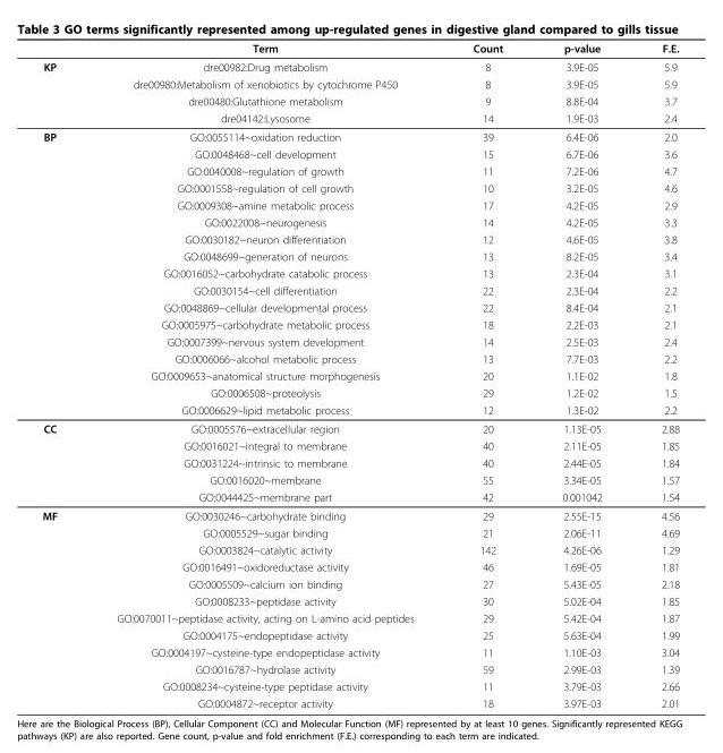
<table><thead><tr><td></td><td>Term</td><td>Count</td><td>p-value</td><td>F.E.</td></tr></thead><tbody><tr><td rowspan="4">KP</td><td>dre00982:Drug metabolism</td><td>8</td><td>3.9E-05</td><td>5.9</td></tr><tr><td>dre00980:Metabolism of xenobiotics by cytochrome P450</td><td>8</td><td>3.9E-05</td><td>5.9</td></tr><tr><td>dre00480:Glutathione metabolism</td><td>9</td><td>8.8E-04</td><td>3.7</td></tr><tr><td>dre04142:Lysosome</td><td>14</td><td>1.9E-03</td><td>2.4</td></tr><tr><td rowspan="17">BP</td><td>GO:0055114~oxidation reduction</td><td>39</td><td>6.4E-06</td><td>2.0</td></tr><tr><td>GO:0048468~cell development</td><td>15</td><td>6.7E-06</td><td>3.6</td></tr><tr><td>GO:0040008~regulation of growth</td><td>11</td><td>7.2E-06</td><td>4.7</td></tr><tr><td>GO:0001558~regulation of cell growth</td><td>10</td><td>3.2E-05</td><td>4.6</td></tr><tr><td>GO:0009308~amine metabolic process</td><td>17</td><td>4.2E-05</td><td>2.9</td></tr><tr><td>GO:0022008~neurogenesis</td><td>14</td><td>4.2E-05</td><td>3.3</td></tr><tr><td>GO:0030182~neuron differentiation</td><td>12</td><td>4.6E-05</td><td>3.8</td></tr><tr><td>GO:0048699~generation of neurons</td><td>13</td><td>8.2E-05</td><td>3.4</td></tr><tr><td>GO:0016052~carbohydrate catabolic process</td><td>13</td><td>2.3E-04</td><td>3.1</td></tr><tr><td>GO:0030154~cell differentiation</td><td>22</td><td>2.3E-04</td><td>2.2</td></tr><tr><td>GO:0048869~cellular developmental process</td><td>22</td><td>8.4E-04</td><td>2.1</td></tr><tr><td>GO:0005975~carbohydrate metabolic process</td><td>18</td><td>2.2E-03</td><td>2.1</td></tr><tr><td>GO:0007399~nervous system development</td><td>14</td><td>2.5E-03</td><td>2.4</td></tr><tr><td>GO:0006066~alcohol metabolic process</td><td>13</td><td>7.7E-03</td><td>2.2</td></tr><tr><td>GO:0009653~anatomical structure morphogenesis</td><td>20</td><td>1.1E-02</td><td>1.8</td></tr><tr><td>GO:0006508~proteolysis</td><td>29</td><td>1.2E-02</td><td>1.5</td></tr><tr><td>GO:0006629~lipid metabolic process</td><td>12</td><td>1.3E-02</td><td>2.2</td></tr><tr><td rowspan="5">CC</td><td>GO:0005576~extracellular region</td><td>20</td><td>1.13E-05</td><td>2.88</td></tr><tr><td>GO:0016021~integral to membrane</td><td>40</td><td>2.11E-05</td><td>1.85</td></tr><tr><td>GO:0031224~intrinsic to membrane</td><td>40</td><td>2.44E-05</td><td>1.84</td></tr><tr><td>GO:0016020~membrane</td><td>55</td><td>3.34E-05</td><td>1.57</td></tr><tr><td>GO:0044425~membrane part</td><td>42</td><td>0.001042</td><td>1.54</td></tr><tr><td rowspan="12">MF</td><td>GO:0030246~carbohydrate binding</td><td>29</td><td>2.55E-15</td><td>4.56</td></tr><tr><td>GO:0005529~sugar binding</td><td>21</td><td>2.06E-11</td><td>4.69</td></tr><tr><td>GO:0003824~catalytic activity</td><td>142</td><td>4.26E-06</td><td>1.29</td></tr><tr><td>GO:0016491~oxidoreductase activity</td><td>46</td><td>1.69E-05</td><td>1.81</td></tr><tr><td>GO:0005509~calcium ion binding</td><td>27</td><td>5.43E-05</td><td>2.18</td></tr><tr><td>GO:0008233~peptidase activity</td><td>30</td><td>5.02E-04</td><td>1.85</td></tr><tr><td>GO:0070011~peptidase activity, acting on L-amino acid peptides</td><td>29</td><td>5.42E-04</td><td>1.87</td></tr><tr><td>GO:0004175~endopeptidase activity</td><td>25</td><td>5.63E-04</td><td>1.99</td></tr><tr><td>GO:0004197~cysteine-type endopeptidase activity</td><td>11</td><td>1.10E-03</td><td>3.04</td></tr><tr><td>GO:0016787~hydrolase activity</td><td>59</td><td>2.99E-03</td><td>1.39</td></tr><tr><td>GO:0008234~cysteine-type peptidase activity</td><td>11</td><td>3.79E-03</td><td>2.66</td></tr><tr><td>GO:0004872~receptor activity</td><td>18</td><td>3.97E-03</td><td>2.01</td></tr></tbody></table>